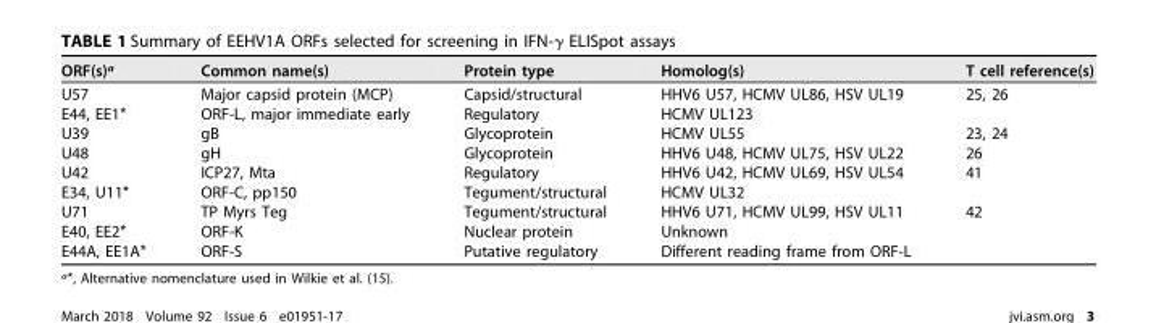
<table><thead><tr><td>ORF(s)<sup>a</sup></td><td>Common name(s)</td><td>Protein type</td><td>Homolog(s)</td><td>T cell reference(s)</td></tr></thead><tbody><tr><td>U57</td><td>Major capsid protein (MCP)</td><td>Capsid/structural</td><td>HHV6 U57, HCMV UL86, HSV UL19</td><td>25, 26</td></tr><tr><td>E44, EE1*</td><td>ORF-L, major immediate early</td><td>Regulatory</td><td>HCMV UL123</td><td></td></tr><tr><td>U39</td><td>gB</td><td>Glycoprotein</td><td>HCMV UL55</td><td>23, 24</td></tr><tr><td>U48</td><td>gH</td><td>Glycoprotein</td><td>HHV6 U48, HCMV UL75, HSV UL22</td><td>26</td></tr><tr><td>U42</td><td>ICP27, Mta</td><td>Regulatory</td><td>HHV6 U42, HCMV UL69, HSV UL54</td><td>41</td></tr><tr><td>E34, U11*</td><td>ORF-C, pp150</td><td>Tegument/structural</td><td>HCMV UL32</td><td></td></tr><tr><td>U71</td><td>TP Myrs Teg</td><td>Tegument/structural</td><td>HHV6 U71, HCMV UL99, HSV UL11</td><td>42</td></tr><tr><td>E40, EE2*</td><td>ORF-K</td><td>Nuclear protein</td><td>Unknown</td><td></td></tr><tr><td>E44A, EE1A*</td><td>ORF-S</td><td>Putative regulatory</td><td>Different reading frame from ORF-L</td><td></td></tr></tbody></table>